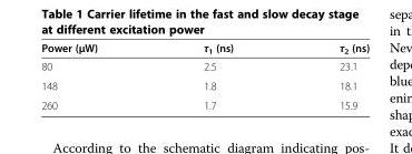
<table><thead><tr><td>Power (μW)</td><td>τ<sub>1</sub> (ns)</td><td>τ<sub>2</sub> (ns)</td></tr></thead><tbody><tr><td>80</td><td>2.5</td><td>23.1</td></tr><tr><td>148</td><td>1.8</td><td>18.1</td></tr><tr><td>260</td><td>1.7</td><td>15.9</td></tr></tbody></table>